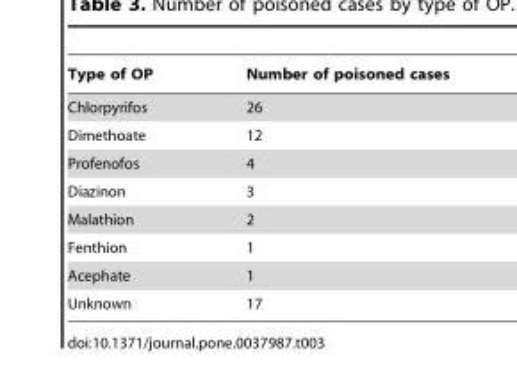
<table><thead><tr><td>Type of OP</td><td>Number of poisoned cases</td></tr></thead><tbody><tr><td>Chlorpyrifos</td><td>26</td></tr><tr><td>Dimethoate</td><td>12</td></tr><tr><td>Profenofos</td><td>4</td></tr><tr><td>Diazinon</td><td>3</td></tr><tr><td>Malathion</td><td>2</td></tr><tr><td>Fenthion</td><td>1</td></tr><tr><td>Acephate</td><td>1</td></tr><tr><td>Unknown</td><td>17</td></tr></tbody></table>